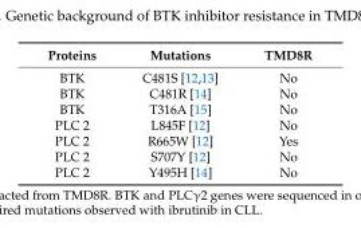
<table><thead><tr><td>Proteins</td><td>Mutations</td><td>TMD8R</td></tr></thead><tbody><tr><td>BTK</td><td>C481S [12,13]</td><td>No</td></tr><tr><td>BTK</td><td>C481R [14]</td><td>No</td></tr><tr><td>BTK</td><td>T316A [15]</td><td>No</td></tr><tr><td>PLC 2</td><td>L845F [12]</td><td>No</td></tr><tr><td>PLC 2</td><td>R665W [12]</td><td>Yes</td></tr><tr><td>PLC 2</td><td>S707Y [12]</td><td>No</td></tr><tr><td>PLC 2</td><td>Y495H [14]</td><td>No</td></tr></tbody></table>